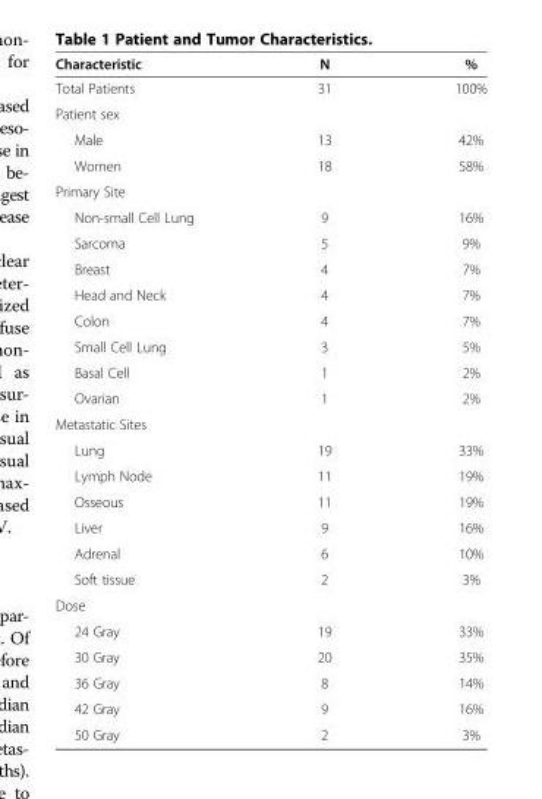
<table><thead><tr><td>Characteristic</td><td>N</td><td>%</td></tr></thead><tbody><tr><td>Total Patients</td><td>31</td><td>100%</td></tr><tr><td colspan="3">Patient sex</td></tr><tr><td>Male</td><td>13</td><td>42%</td></tr><tr><td>Women</td><td>18</td><td>58%</td></tr><tr><td colspan="3">Primary Site</td></tr><tr><td>Non-small Cell Lung</td><td>9</td><td>16%</td></tr><tr><td>Sarcoma</td><td>5</td><td>9%</td></tr><tr><td>Breast</td><td>4</td><td>7%</td></tr><tr><td>Head and Neck</td><td>4</td><td>7%</td></tr><tr><td>Colon</td><td>4</td><td>7%</td></tr><tr><td>Small Cell Lung</td><td>3</td><td>5%</td></tr><tr><td>Basal Cell</td><td>1</td><td>2%</td></tr><tr><td>Ovarian</td><td>1</td><td>2%</td></tr><tr><td colspan="3">Metastatic Sites</td></tr><tr><td>Lung</td><td>19</td><td>33%</td></tr><tr><td>Lymph Node</td><td>11</td><td>19%</td></tr><tr><td>Osseous</td><td>11</td><td>19%</td></tr><tr><td>Liver</td><td>9</td><td>16%</td></tr><tr><td>Adrenal</td><td>6</td><td>10%</td></tr><tr><td>Soft tissue</td><td>2</td><td>3%</td></tr><tr><td colspan="3">Dose</td></tr><tr><td>24 Gray</td><td>19</td><td>33%</td></tr><tr><td>30 Gray</td><td>20</td><td>35%</td></tr><tr><td>36 Gray</td><td>8</td><td>14%</td></tr><tr><td>42 Gray</td><td>9</td><td>16%</td></tr><tr><td>50 Gray</td><td>2</td><td>3%</td></tr></tbody></table>